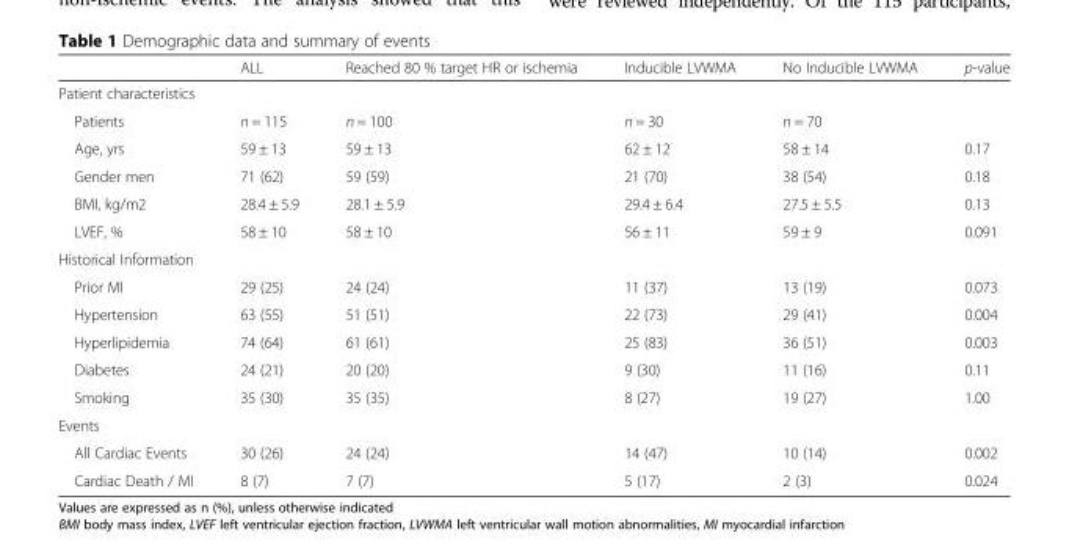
<table><thead><tr><td></td><td>ALL</td><td>Reached 80 % target HR or ischemia</td><td>Inducible LVWMA</td><td>No Inducible LVWMA</td><td>p-value</td></tr></thead><tbody><tr><td colspan="6">Patient characteristics</td></tr><tr><td>Patients</td><td>n = 115</td><td>n = 100</td><td>n = 30</td><td>n = 70</td><td></td></tr><tr><td>Age, yrs</td><td>59 ± 13</td><td>59 ± 13</td><td>62 ± 12</td><td>58 ± 14</td><td>0.17</td></tr><tr><td>Gender men</td><td>71 (62)</td><td>59 (59)</td><td>21 (70)</td><td>38 (54)</td><td>0.18</td></tr><tr><td>BMI, kg/m2</td><td>28.4 ± 5.9</td><td>28.1 ± 5.9</td><td>29.4 ± 6.4</td><td>27.5 ± 5.5</td><td>0.13</td></tr><tr><td>LVEF, %</td><td>58 ± 10</td><td>58 ± 10</td><td>56 ± 11</td><td>59 ± 9</td><td>0.091</td></tr><tr><td colspan="6">Historical Information</td></tr><tr><td>Prior MI</td><td>29 (25)</td><td>24 (24)</td><td>11 (37)</td><td>13 (19)</td><td>0.073</td></tr><tr><td>Hypertension</td><td>63 (55)</td><td>51 (51)</td><td>22 (73)</td><td>29 (41)</td><td>0.004</td></tr><tr><td>Hyperlipidemia</td><td>74 (64)</td><td>61 (61)</td><td>25 (83)</td><td>36 (51)</td><td>0.003</td></tr><tr><td>Diabetes</td><td>24 (21)</td><td>20 (20)</td><td>9 (30)</td><td>11 (16)</td><td>0.11</td></tr><tr><td>Smoking</td><td>35 (30)</td><td>35 (35)</td><td>8 (27)</td><td>19 (27)</td><td>1.00</td></tr><tr><td colspan="6">Events</td></tr><tr><td>All Cardiac Events</td><td>30 (26)</td><td>24 (24)</td><td>14 (47)</td><td>10 (14)</td><td>0.002</td></tr><tr><td>Cardiac Death / MI</td><td>8 (7)</td><td>7 (7)</td><td>5 (17)</td><td>2 (3)</td><td>0.024</td></tr></tbody></table>